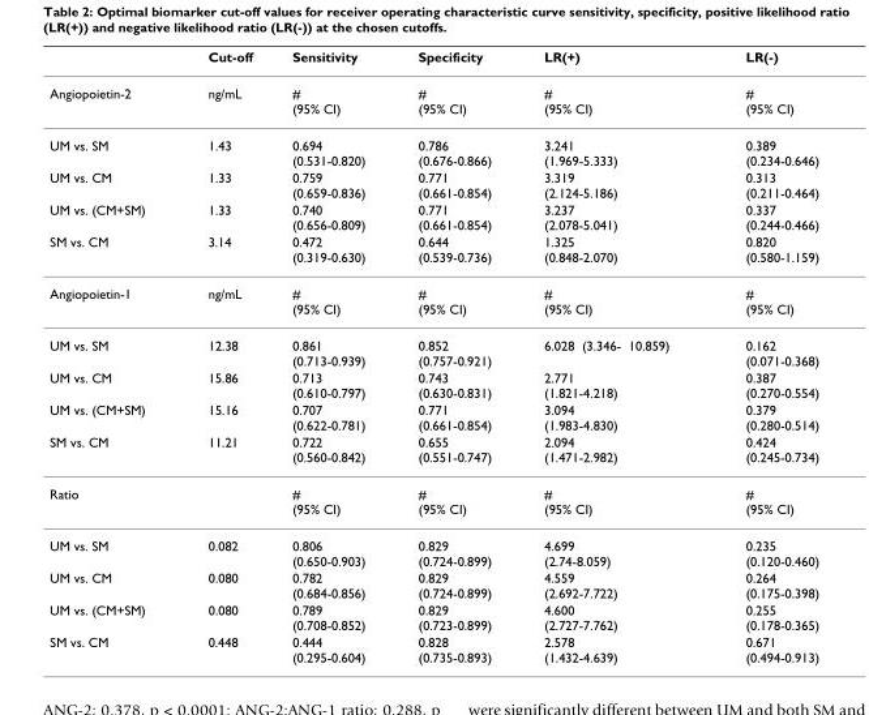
<table><thead><tr><td></td><td>Cut-off</td><td>Sensitivity</td><td>Specificity</td><td>LR(+)</td><td>LR(-)</td></tr></thead><tbody><tr><td>Angiopoietin-2</td><td>ng/mL</td><td># (95% CI)</td><td># (95% CI)</td><td># (95% CI)</td><td># (95% CI)</td></tr><tr><td>UM vs. SM</td><td>1.43</td><td>0.694 (0.531-0.820)</td><td>0.786 (0.676-0.866)</td><td>3.241 (1.969-5.333)</td><td>0.389 (0.234-0.646)</td></tr><tr><td>UM vs. CM</td><td>1.33</td><td>0.759 (0.659-0.836)</td><td>0.771 (0.661-0.854)</td><td>3.319 (2.124-5.186)</td><td>0.313 (0.211-0.464)</td></tr><tr><td>UM vs. (CM+SM)</td><td>1.33</td><td>0.740 (0.656-0.809)</td><td>0.771 (0.661-0.854)</td><td>3.237 (2.078-5.041)</td><td>0.337 (0.244-0.466)</td></tr><tr><td>SM vs. CM</td><td>3.14</td><td>0.472 (0.319-0.630)</td><td>0.644 (0.539-0.736)</td><td>1.325 (0.848-2.070)</td><td>0.820 (0.580-1.159)</td></tr><tr><td>Angiopoietin-1</td><td>ng/mL</td><td># (95% CI)</td><td># (95% CI)</td><td># (95% CI)</td><td># (95% CI)</td></tr><tr><td>UM vs. SM</td><td>12.38</td><td>0.861 (0.713-0.939)</td><td>0.852 (0.757-0.921)</td><td>6.028 (3.346- 10.859)</td><td>0.162 (0.071-0.368)</td></tr><tr><td>UM vs. CM</td><td>15.86</td><td>0.713 (0.610-0.797)</td><td>0.743 (0.630-0.831)</td><td>2.771 (1.821-4.218)</td><td>0.387 (0.270-0.554)</td></tr><tr><td>UM vs. (CM+SM)</td><td>15.16</td><td>0.707 (0.622-0.781)</td><td>0.771 (0.661-0.854)</td><td>3.094 (1.983-4.830)</td><td>0.379 (0.280-0.514)</td></tr><tr><td>SM vs. CM</td><td>11.21</td><td>0.722 (0.560-0.842)</td><td>0.655 (0.551-0.747)</td><td>2.094 (1.471-2.982)</td><td>0.424 (0.245-0.734)</td></tr><tr><td>Ratio</td><td></td><td># (95% CI)</td><td># (95% CI)</td><td># (95% CI)</td><td># (95% CI)</td></tr><tr><td>UM vs. SM</td><td>0.082</td><td>0.806 (0.650-0.903)</td><td>0.829 (0.724-0.899)</td><td>4.699 (2.74-8.059)</td><td>0.235 (0.120-0.460)</td></tr><tr><td>UM vs. CM</td><td>0.080</td><td>0.782 (0.684-0.856)</td><td>0.829 (0.724-0.899)</td><td>4.559 (2.692-7.722)</td><td>0.264 (0.175-0.398)</td></tr><tr><td>UM vs. (CM+SM)</td><td>0.080</td><td>0.789 (0.708-0.852)</td><td>0.829 (0.723-0.899)</td><td>4.600 (2.727-7.762)</td><td>0.255 (0.178-0.365)</td></tr><tr><td>SM vs. CM</td><td>0.448</td><td>0.444 (0.295-0.604)</td><td>0.828 (0.735-0.893)</td><td>2.578 (1.432-4.639)</td><td>0.671 (0.494-0.913)</td></tr></tbody></table>